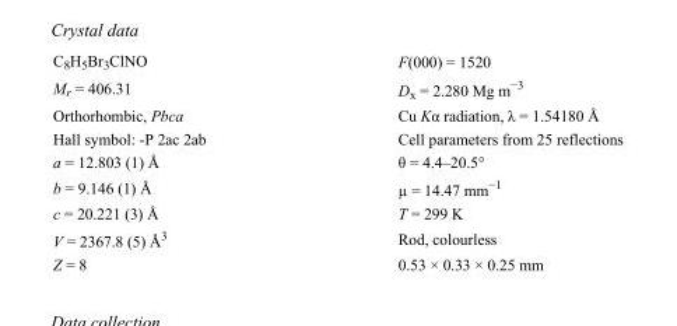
<table><tbody><tr><td>C<sub>8</sub>H<sub>5</sub>Br<sub>3</sub>ClNO</td><td>F(000) = 1520</td></tr><tr><td>M<sub>r</sub> = 406.31</td><td>D<sub>x</sub> = 2.280 Mg m<sup>−3</sup></td></tr><tr><td>Orthorhombic, Pbca</td><td>Cu Kα radiation, λ = 1.54180 Å</td></tr><tr><td>Hall symbol: -P 2ac 2ab</td><td>Cell parameters from 25 reflections</td></tr><tr><td>a = 12.803 (1) Å</td><td>θ = 4.4–20.5°</td></tr><tr><td>b = 9.146 (1) Å</td><td>µ = 14.47 mm<sup>−1</sup></td></tr><tr><td>c = 20.221 (3) Å</td><td>T = 299 K</td></tr><tr><td>V = 2367.8 (5) Å<sup>3</sup></td><td>Rod, colourless</td></tr><tr><td>Z = 8</td><td>0.53 × 0.33 × 0.25 mm</td></tr></tbody></table>